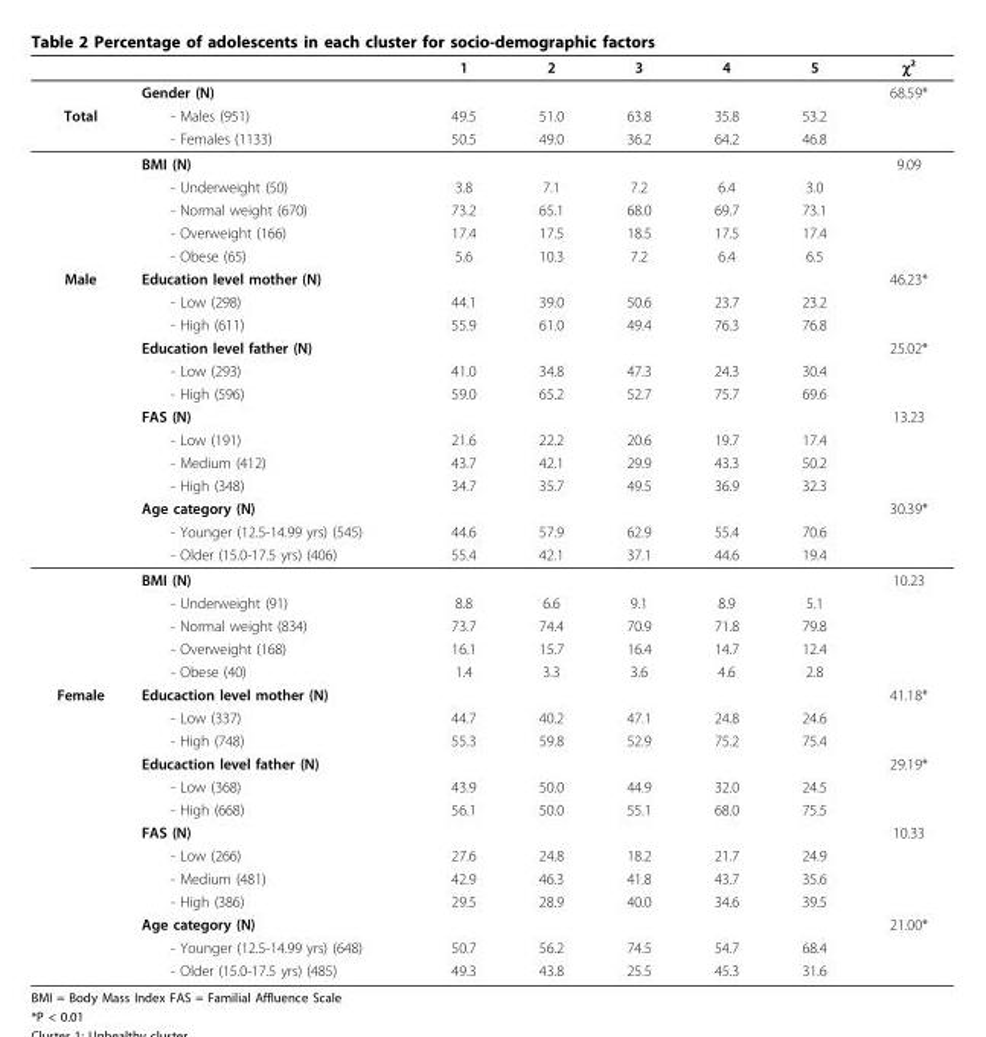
<table><thead><tr><td></td><td></td><td>1</td><td>2</td><td>3</td><td>4</td><td>5</td><td>χ²</td></tr></thead><tbody><tr><td></td><td>Gender (N)</td><td></td><td></td><td></td><td></td><td></td><td>68.59*</td></tr><tr><td rowspan="7">Total</td><td>- Males (951)</td><td>49.5</td><td>51.0</td><td>63.8</td><td>35.8</td><td>53.2</td><td></td></tr><tr><td>- Females (1133)</td><td>50.5</td><td>49.0</td><td>36.2</td><td>64.2</td><td>46.8</td><td></td></tr><tr><td>BMI (N)</td><td></td><td></td><td></td><td></td><td></td><td>9.09</td></tr><tr><td>- Underweight (50)</td><td>3.8</td><td>7.1</td><td>7.2</td><td>6.4</td><td>3.0</td><td></td></tr><tr><td>- Normal weight (670)</td><td>73.2</td><td>65.1</td><td>68.0</td><td>69.7</td><td>73.1</td><td></td></tr><tr><td>- Overweight (166)</td><td>17.4</td><td>17.5</td><td>18.5</td><td>17.5</td><td>17.4</td><td></td></tr><tr><td>- Obese (65)</td><td>5.6</td><td>10.3</td><td>7.2</td><td>6.4</td><td>6.5</td><td></td></tr><tr><td rowspan="18">Male</td><td>Education level mother (N)</td><td></td><td></td><td></td><td></td><td></td><td>46.23*</td></tr><tr><td>- Low (298)</td><td>44.1</td><td>39.0</td><td>50.6</td><td>23.7</td><td>23.2</td><td></td></tr><tr><td>- High (611)</td><td>55.9</td><td>61.0</td><td>49.4</td><td>76.3</td><td>76.8</td><td></td></tr><tr><td>Education level father (N)</td><td></td><td></td><td></td><td></td><td></td><td>25.02*</td></tr><tr><td>- Low (293)</td><td>41.0</td><td>34.8</td><td>47.3</td><td>24.3</td><td>30.4</td><td></td></tr><tr><td>- High (596)</td><td>59.0</td><td>65.2</td><td>52.7</td><td>75.7</td><td>69.6</td><td></td></tr><tr><td>FAS (N)</td><td></td><td></td><td></td><td></td><td></td><td>13.23</td></tr><tr><td>- Low (191)</td><td>21.6</td><td>22.2</td><td>20.6</td><td>19.7</td><td>17.4</td><td></td></tr><tr><td>- Medium (412)</td><td>43.7</td><td>42.1</td><td>29.9</td><td>43.3</td><td>50.2</td><td></td></tr><tr><td>- High (348)</td><td>34.7</td><td>35.7</td><td>49.5</td><td>36.9</td><td>32.3</td><td></td></tr><tr><td>Age category (N)</td><td></td><td></td><td></td><td></td><td></td><td>30.39*</td></tr><tr><td>- Younger (12.5-14.99 yrs) (545)</td><td>44.6</td><td>57.9</td><td>62.9</td><td>55.4</td><td>70.6</td><td></td></tr><tr><td>- Older (15.0-17.5 yrs) (406)</td><td>55.4</td><td>42.1</td><td>37.1</td><td>44.6</td><td>19.4</td><td></td></tr><tr><td>BMI (N)</td><td></td><td></td><td></td><td></td><td></td><td>10.23</td></tr><tr><td>- Underweight (91)</td><td>8.8</td><td>6.6</td><td>9.1</td><td>8.9</td><td>5.1</td><td></td></tr><tr><td>- Normal weight (834)</td><td>73.7</td><td>74.4</td><td>70.9</td><td>71.8</td><td>79.8</td><td></td></tr><tr><td>- Overweight (168)</td><td>16.1</td><td>15.7</td><td>16.4</td><td>14.7</td><td>12.4</td><td></td></tr><tr><td>- Obese (40)</td><td>1.4</td><td>3.3</td><td>3.6</td><td>4.6</td><td>2.8</td><td></td></tr><tr><td rowspan="13">Female</td><td>Educaction level mother (N)</td><td></td><td></td><td></td><td></td><td></td><td>41.18*</td></tr><tr><td>- Low (337)</td><td>44.7</td><td>40.2</td><td>47.1</td><td>24.8</td><td>24.6</td><td></td></tr><tr><td>- High (748)</td><td>55.3</td><td>59.8</td><td>52.9</td><td>75.2</td><td>75.4</td><td></td></tr><tr><td>Educaction level father (N)</td><td></td><td></td><td></td><td></td><td></td><td>29.19*</td></tr><tr><td>- Low (368)</td><td>43.9</td><td>50.0</td><td>44.9</td><td>32.0</td><td>24.5</td><td></td></tr><tr><td>- High (668)</td><td>56.1</td><td>50.0</td><td>55.1</td><td>68.0</td><td>75.5</td><td></td></tr><tr><td>FAS (N)</td><td></td><td></td><td></td><td></td><td></td><td>10.33</td></tr><tr><td>- Low (266)</td><td>27.6</td><td>24.8</td><td>18.2</td><td>21.7</td><td>24.9</td><td></td></tr><tr><td>- Medium (481)</td><td>42.9</td><td>46.3</td><td>41.8</td><td>43.7</td><td>35.6</td><td></td></tr><tr><td>- High (386)</td><td>29.5</td><td>28.9</td><td>40.0</td><td>34.6</td><td>39.5</td><td></td></tr><tr><td>Age category (N)</td><td></td><td></td><td></td><td></td><td></td><td>21.00*</td></tr><tr><td>- Younger (12.5-14.99 yrs) (648)</td><td>50.7</td><td>56.2</td><td>74.5</td><td>54.7</td><td>68.4</td><td></td></tr><tr><td>- Older (15.0-17.5 yrs) (485)</td><td>49.3</td><td>43.8</td><td>25.5</td><td>45.3</td><td>31.6</td><td></td></tr></tbody></table>